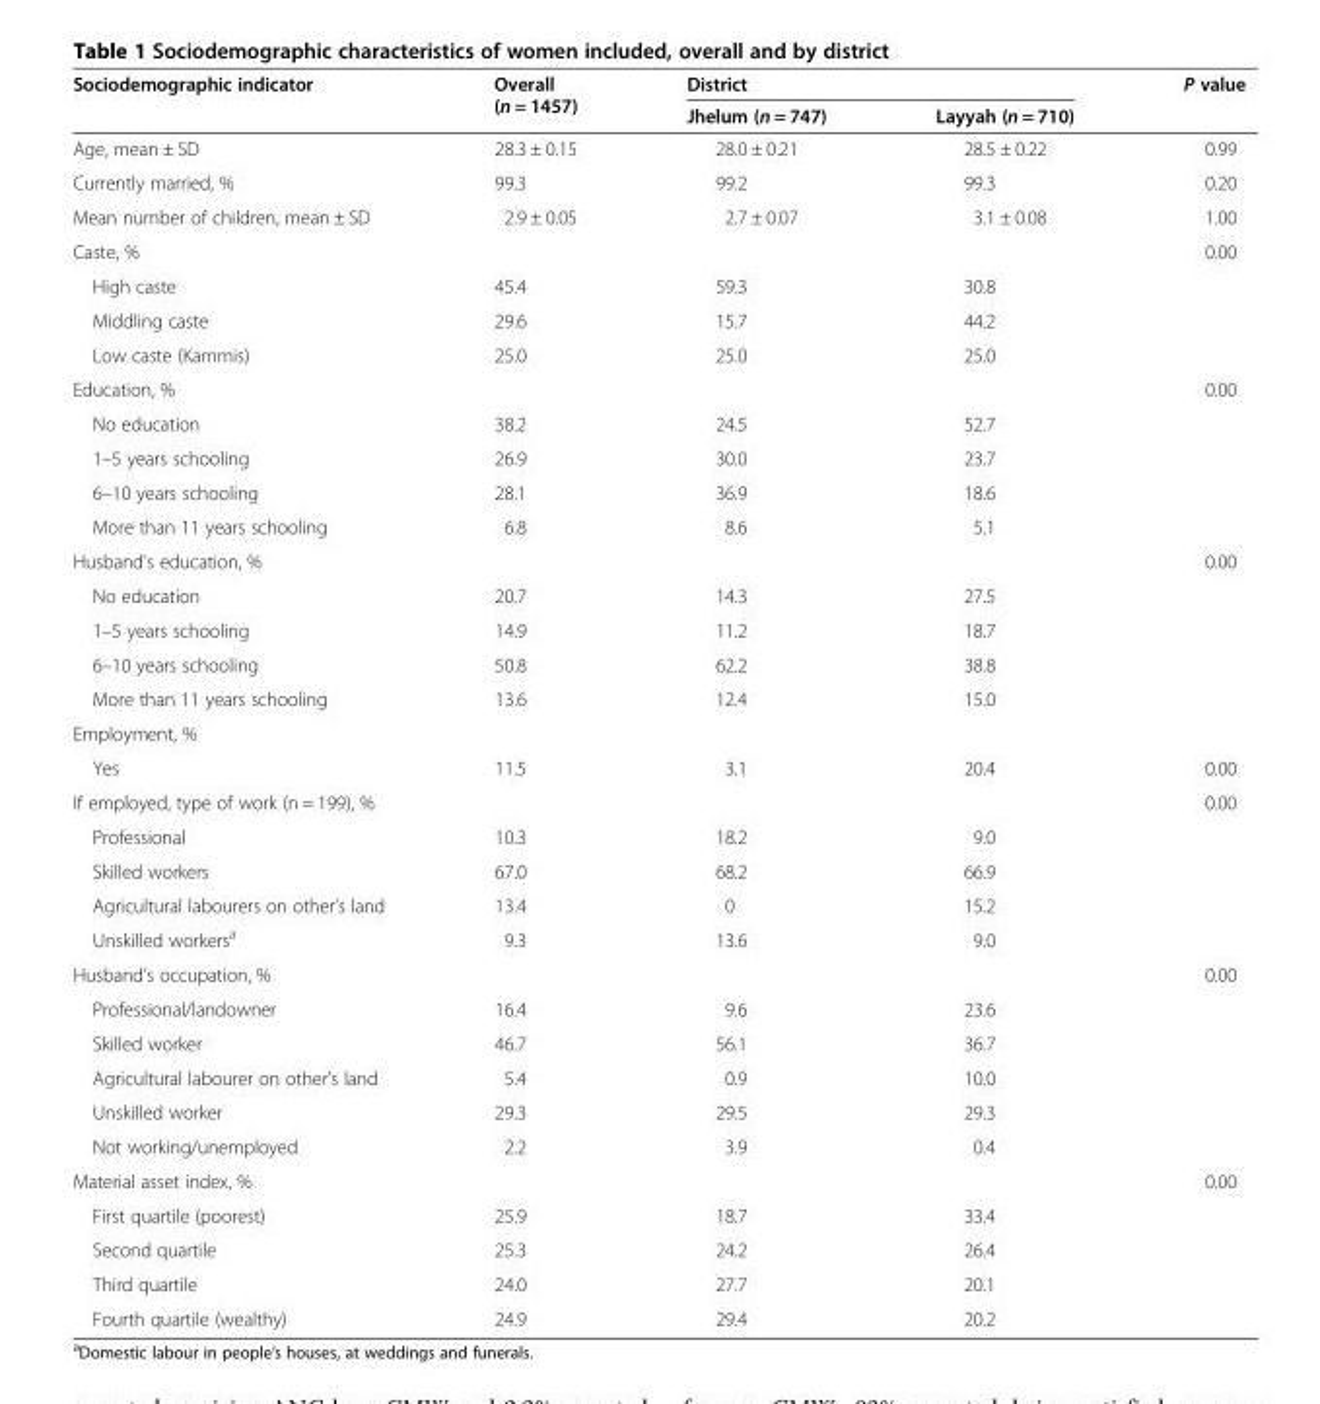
<table><thead><tr><td rowspan="2">Sociodemographic indicator</td><td rowspan="2">Overall (n = 1457)</td><td colspan="2">District</td><td rowspan="2">P value</td></tr><tr><td>Jhelum (n = 747)</td><td>Layyah (n = 710)</td></tr></thead><tbody><tr><td>Age, mean ± SD</td><td>28.3 ± 0.15</td><td>28.0 ± 0.21</td><td>28.5 ± 0.22</td><td>0.99</td></tr><tr><td>Currently married, %</td><td>99.3</td><td>99.2</td><td>99.3</td><td>0.20</td></tr><tr><td>Mean number of children, mean ± SD</td><td>2.9 ± 0.05</td><td>2.7 ± 0.07</td><td>3.1 ± 0.08</td><td>1.00</td></tr><tr><td>Caste, %</td><td></td><td></td><td></td><td>0.00</td></tr><tr><td>High caste</td><td>45.4</td><td>59.3</td><td>30.8</td><td></td></tr><tr><td>Middling caste</td><td>29.6</td><td>15.7</td><td>44.2</td><td></td></tr><tr><td>Low caste (Kammis)</td><td>25.0</td><td>25.0</td><td>25.0</td><td></td></tr><tr><td>Education, %</td><td></td><td></td><td></td><td>0.00</td></tr><tr><td>No education</td><td>38.2</td><td>24.5</td><td>52.7</td><td></td></tr><tr><td>1–5 years schooling</td><td>26.9</td><td>30.0</td><td>23.7</td><td></td></tr><tr><td>6–10 years schooling</td><td>28.1</td><td>36.9</td><td>18.6</td><td></td></tr><tr><td>More than 11 years schooling</td><td>6.8</td><td>8.6</td><td>5.1</td><td></td></tr><tr><td>Husband’s education, %</td><td></td><td></td><td></td><td>0.00</td></tr><tr><td>No education</td><td>20.7</td><td>14.3</td><td>27.5</td><td></td></tr><tr><td>1–5 years schooling</td><td>14.9</td><td>11.2</td><td>18.7</td><td></td></tr><tr><td>6–10 years schooling</td><td>50.8</td><td>62.2</td><td>38.8</td><td></td></tr><tr><td>More than 11 years schooling</td><td>13.6</td><td>12.4</td><td>15.0</td><td></td></tr><tr><td colspan="5">Employment, %</td></tr><tr><td>Yes</td><td>11.5</td><td>3.1</td><td>20.4</td><td>0.00</td></tr><tr><td>If employed, type of work (n = 199), %</td><td></td><td></td><td></td><td>0.00</td></tr><tr><td>Professional</td><td>10.3</td><td>18.2</td><td>9.0</td><td></td></tr><tr><td>Skilled workers</td><td>67.0</td><td>68.2</td><td>66.9</td><td></td></tr><tr><td>Agricultural labourers on other’s land</td><td>13.4</td><td>0</td><td>15.2</td><td></td></tr><tr><td>Unskilled workers<sup>a</sup></td><td>9.3</td><td>13.6</td><td>9.0</td><td></td></tr><tr><td>Husband’s occupation, %</td><td></td><td></td><td></td><td>0.00</td></tr><tr><td>Professional/landowner</td><td>16.4</td><td>9.6</td><td>23.6</td><td></td></tr><tr><td>Skilled worker</td><td>46.7</td><td>56.1</td><td>36.7</td><td></td></tr><tr><td>Agricultural labourer on other’s land</td><td>5.4</td><td>0.9</td><td>10.0</td><td></td></tr><tr><td>Unskilled worker</td><td>29.3</td><td>29.5</td><td>29.3</td><td></td></tr><tr><td>Not working/unemployed</td><td>2.2</td><td>3.9</td><td>0.4</td><td></td></tr><tr><td>Material asset index, %</td><td></td><td></td><td></td><td>0.00</td></tr><tr><td>First quartile (poorest)</td><td>25.9</td><td>18.7</td><td>33.4</td><td></td></tr><tr><td>Second quartile</td><td>25.3</td><td>24.2</td><td>26.4</td><td></td></tr><tr><td>Third quartile</td><td>24.0</td><td>27.7</td><td>20.1</td><td></td></tr><tr><td>Fourth quartile (wealthy)</td><td>24.9</td><td>29.4</td><td>20.2</td><td></td></tr></tbody></table>